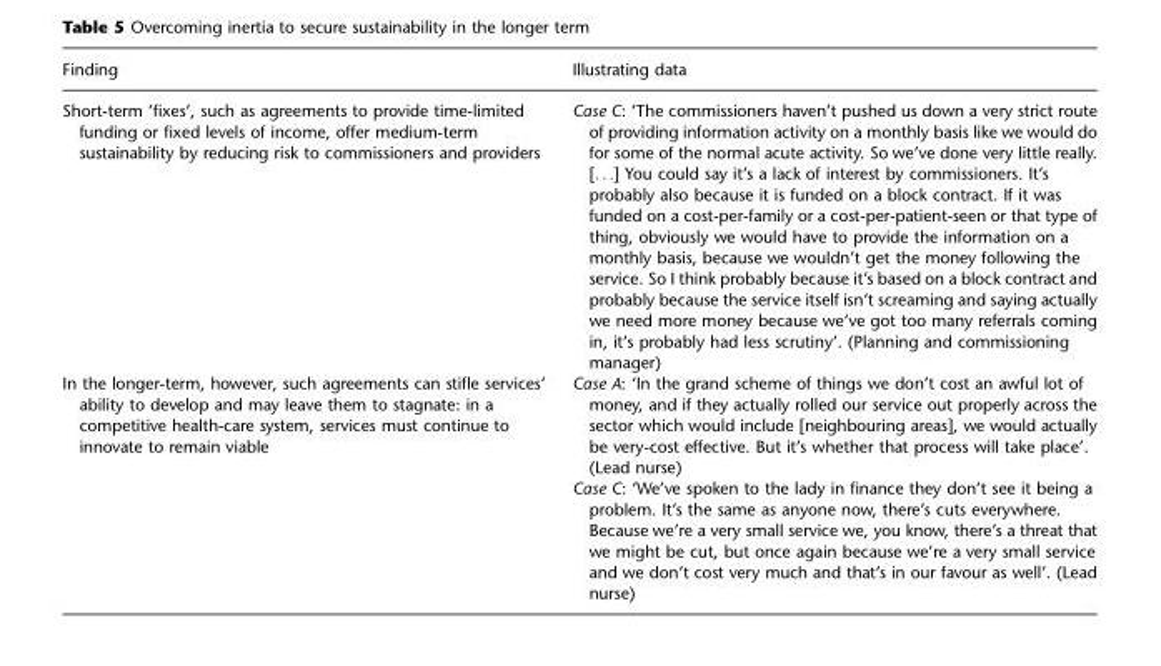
<table><thead><tr><td>Finding</td><td>Illustrating data</td></tr></thead><tbody><tr><td>Short-term ‘fixes’, such as agreements to provide time-limited funding or fixed levels of income, offer medium-term sustainability by reducing risk to commissioners and providers</td><td>Case C: ‘The commissioners haven’t pushed us down a very strict route of providing information activity on a monthly basis like we would do for some of the normal acute activity. So we’ve done very little really. [. . .] You could say it’s a lack of interest by commissioners. It’s probably also because it is funded on a block contract. If it was funded on a cost-per-family or a cost-per-patient-seen or that type of thing, obviously we would have to provide the information on a monthly basis, because we wouldn’t get the money following the service. So I think probably because it’s based on a block contract and probably because the service itself isn’t screaming and saying actually we need more money because we’ve got too many referrals coming in, it’s probably had less scrutiny’. (Planning and commissioning manager)</td></tr><tr><td rowspan="2">In the longer-term, however, such agreements can stifle services’ ability to develop and may leave them to stagnate: in a competitive health-care system, services must continue to innovate to remain viable</td><td>Case A: ‘In the grand scheme of things we don’t cost an awful lot of money, and if they actually rolled our service out properly across the sector which would include [neighbouring areas], we would actually be very-cost effective. But it’s whether that process will take place’. (Lead nurse)</td></tr><tr><td>Case C: ‘We’ve spoken to the lady in finance they don’t see it being a problem. It’s the same as anyone now, there’s cuts everywhere. Because we’re a very small service we, you know, there’s a threat that we might be cut, but once again because we’re a very small service and we don’t cost very much and that’s in our favour as well’. (Lead nurse)</td></tr></tbody></table>